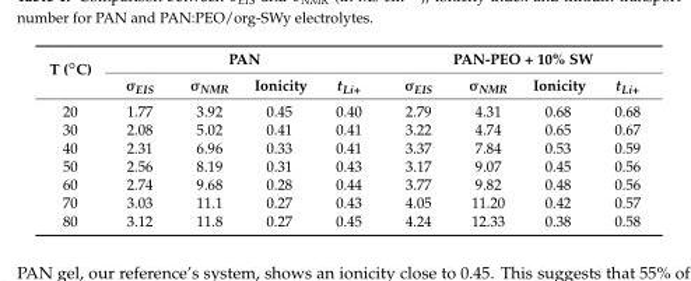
<table><thead><tr><td rowspan="2">T (◦C)</td><td colspan="4">PAN</td><td colspan="4">PAN-PEO + 10% SW</td></tr><tr><td>σ<sub>EIS</sub></td><td>σ<sub>NMR</sub></td><td>Ionicity</td><td>t<sub>Li+</sub></td><td>σ<sub>EIS</sub></td><td>σ<sub>NMR</sub></td><td>Ionicity</td><td>t<sub>Li+</sub></td></tr></thead><tbody><tr><td>20</td><td>1.77</td><td>3.92</td><td>0.45</td><td>0.40</td><td>2.79</td><td>4.31</td><td>0.68</td><td>0.68</td></tr><tr><td>30</td><td>2.08</td><td>5.02</td><td>0.41</td><td>0.41</td><td>3.22</td><td>4.74</td><td>0.65</td><td>0.67</td></tr><tr><td>40</td><td>2.31</td><td>6.96</td><td>0.33</td><td>0.41</td><td>3.37</td><td>7.84</td><td>0.53</td><td>0.59</td></tr><tr><td>50</td><td>2.56</td><td>8.19</td><td>0.31</td><td>0.43</td><td>3.17</td><td>9.07</td><td>0.45</td><td>0.56</td></tr><tr><td>60</td><td>2.74</td><td>9.68</td><td>0.28</td><td>0.44</td><td>3.77</td><td>9.82</td><td>0.48</td><td>0.56</td></tr><tr><td>70</td><td>3.03</td><td>11.1</td><td>0.27</td><td>0.43</td><td>4.05</td><td>11.20</td><td>0.42</td><td>0.57</td></tr><tr><td>80</td><td>3.12</td><td>11.8</td><td>0.27</td><td>0.45</td><td>4.24</td><td>12.33</td><td>0.38</td><td>0.58</td></tr></tbody></table>